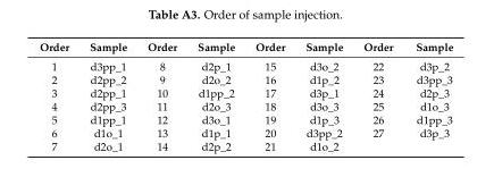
<table><thead><tr><td>Order</td><td>Sample</td><td>Order</td><td>Sample</td><td>Order</td><td>Sample</td><td>Order</td><td>Sample</td></tr></thead><tbody><tr><td>1</td><td>d3pp_1</td><td>8</td><td>d2p_1</td><td>15</td><td>d3o_2</td><td>22</td><td>d3p_2</td></tr><tr><td>2</td><td>d2pp_2</td><td>9</td><td>d2o_2</td><td>16</td><td>d1p_2</td><td>23</td><td>d3pp_3</td></tr><tr><td>3</td><td>d2pp_1</td><td>10</td><td>d1pp_2</td><td>17</td><td>d3p_1</td><td>24</td><td>d2p_3</td></tr><tr><td>4</td><td>d2pp_3</td><td>11</td><td>d2o_3</td><td>18</td><td>d3o_3</td><td>25</td><td>d1o_3</td></tr><tr><td>5</td><td>d1pp_1</td><td>12</td><td>d3o_1</td><td>19</td><td>d1p_3</td><td>26</td><td>d1pp_3</td></tr><tr><td>6</td><td>d1o_1</td><td>13</td><td>d1p_1</td><td>20</td><td>d3pp_2</td><td>27</td><td>d3p_3</td></tr><tr><td>7</td><td>d2o_1</td><td>14</td><td>d2p_2</td><td>21</td><td>d1o_2</td><td></td><td></td></tr></tbody></table>